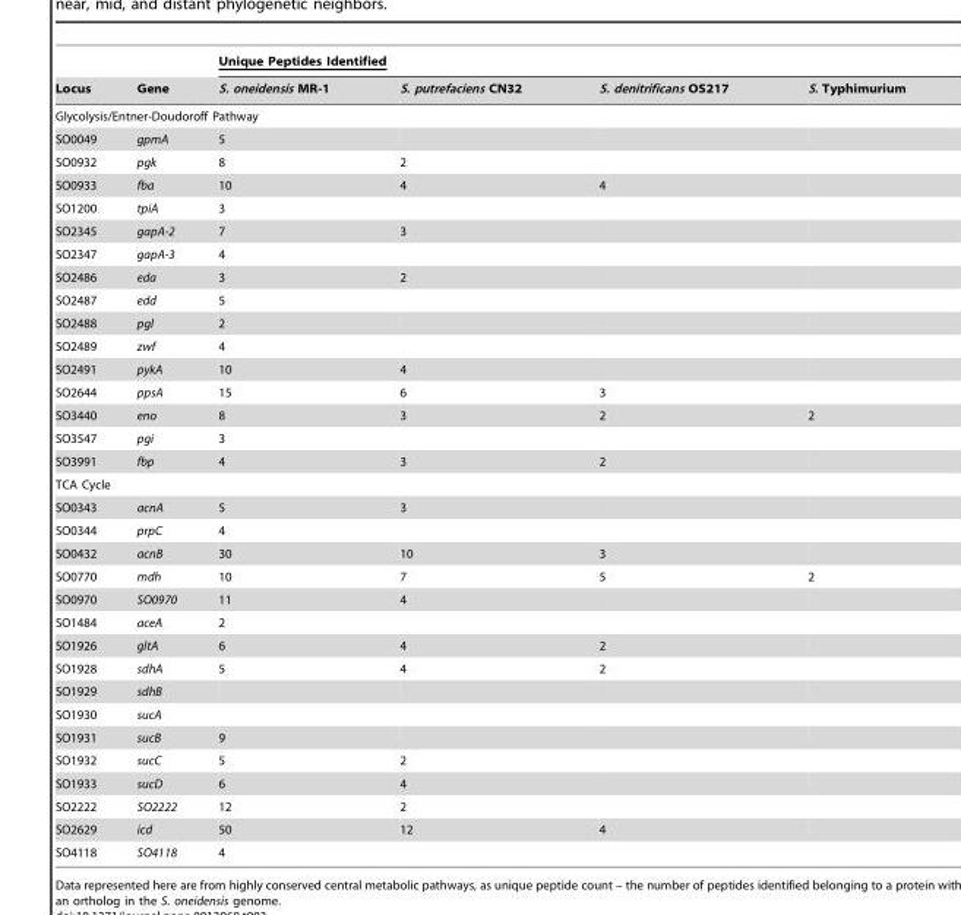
<table><thead><tr><td rowspan="2">Locus</td><td rowspan="2">Gene</td><td colspan="4">Unique Peptides Identified</td></tr><tr><td>S. oneidensis MR-1</td><td>S. putrefaciens CN32</td><td>S. denitrificans OS217</td><td>S. Typhimurium</td></tr></thead><tbody><tr><td colspan="6">Glycolysis/Entner-Doudoroff Pathway</td></tr><tr><td>SO0049</td><td>gpmA</td><td>5</td><td></td><td></td><td></td></tr><tr><td>SO0932</td><td>pgk</td><td>8</td><td>2</td><td></td><td></td></tr><tr><td>SO0933</td><td>fba</td><td>10</td><td>4</td><td>4</td><td></td></tr><tr><td>SO1200</td><td>tpiA</td><td>3</td><td></td><td></td><td></td></tr><tr><td>SO2345</td><td>gapA-2</td><td>7</td><td>3</td><td></td><td></td></tr><tr><td>SO2347</td><td>gapA-3</td><td>4</td><td></td><td></td><td></td></tr><tr><td>SO2486</td><td>eda</td><td>3</td><td>2</td><td></td><td></td></tr><tr><td>SO2487</td><td>edd</td><td>5</td><td></td><td></td><td></td></tr><tr><td>SO2488</td><td>pgl</td><td>2</td><td></td><td></td><td></td></tr><tr><td>SO2489</td><td>zwf</td><td>4</td><td></td><td></td><td></td></tr><tr><td>SO2491</td><td>pykA</td><td>10</td><td>4</td><td></td><td></td></tr><tr><td>SO2644</td><td>ppsA</td><td>15</td><td>6</td><td>3</td><td></td></tr><tr><td>SO3440</td><td>eno</td><td>8</td><td>3</td><td>2</td><td>2</td></tr><tr><td>SO3547</td><td>pgi</td><td>3</td><td></td><td></td><td></td></tr><tr><td>SO3991</td><td>fbp</td><td>4</td><td>3</td><td>2</td><td></td></tr><tr><td colspan="6">TCA Cycle</td></tr><tr><td>SO0343</td><td>acnA</td><td>5</td><td>3</td><td></td><td></td></tr><tr><td>SO0344</td><td>prpC</td><td>4</td><td></td><td></td><td></td></tr><tr><td>SO0432</td><td>acnB</td><td>30</td><td>10</td><td>3</td><td></td></tr><tr><td>SO0770</td><td>mdh</td><td>10</td><td>7</td><td>5</td><td>2</td></tr><tr><td>SO0970</td><td>SO0970</td><td>11</td><td>4</td><td></td><td></td></tr><tr><td>SO1484</td><td>aceA</td><td>2</td><td></td><td></td><td></td></tr><tr><td>SO1926</td><td>gltA</td><td>6</td><td>4</td><td>2</td><td></td></tr><tr><td>SO1928</td><td>sdhA</td><td>5</td><td>4</td><td>2</td><td></td></tr><tr><td>SO1929</td><td>sdhB</td><td></td><td></td><td></td><td></td></tr><tr><td>SO1930</td><td>sucA</td><td></td><td></td><td></td><td></td></tr><tr><td>SO1931</td><td>sucB</td><td>9</td><td></td><td></td><td></td></tr><tr><td>SO1932</td><td>sucC</td><td>5</td><td>2</td><td></td><td></td></tr><tr><td>SO1933</td><td>sucD</td><td>6</td><td>4</td><td></td><td></td></tr><tr><td>SO2222</td><td>SO2222</td><td>12</td><td>2</td><td></td><td></td></tr><tr><td>SO2629</td><td>icd</td><td>50</td><td>12</td><td>4</td><td></td></tr><tr><td>SO4118</td><td>SO4118</td><td>4</td><td></td><td></td><td></td></tr></tbody></table>